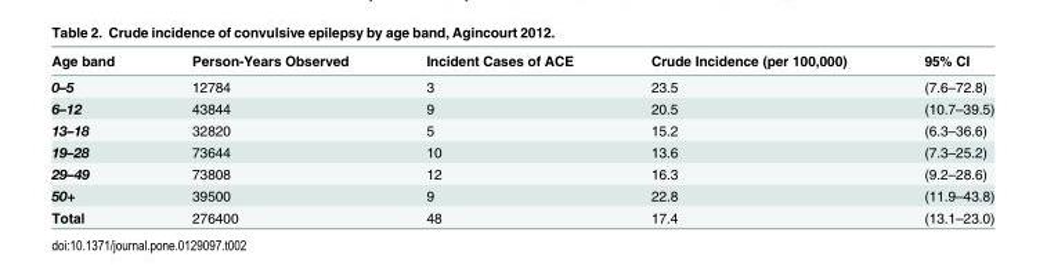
<table><thead><tr><td>Age band</td><td>Person-Years Observed</td><td>Incident Cases of ACE</td><td>Crude Incidence (per 100,000)</td><td>95% CI</td></tr></thead><tbody><tr><td>0–5</td><td>12784</td><td>3</td><td>23.5</td><td>(7.6–72.8)</td></tr><tr><td>6–12</td><td>43844</td><td>9</td><td>20.5</td><td>(10.7–39.5)</td></tr><tr><td>13–18</td><td>32820</td><td>5</td><td>15.2</td><td>(6.3–36.6)</td></tr><tr><td>19–28</td><td>73644</td><td>10</td><td>13.6</td><td>(7.3–25.2)</td></tr><tr><td>29–49</td><td>73808</td><td>12</td><td>16.3</td><td>(9.2–28.6)</td></tr><tr><td>50+</td><td>39500</td><td>9</td><td>22.8</td><td>(11.9–43.8)</td></tr><tr><td>Total</td><td>276400</td><td>48</td><td>17.4</td><td>(13.1–23.0)</td></tr></tbody></table>